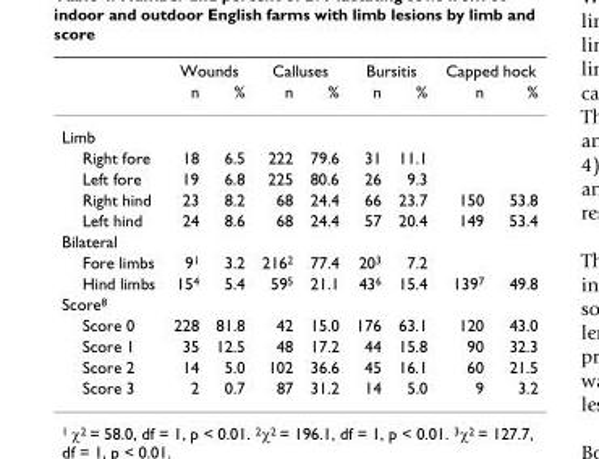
<table><thead><tr><td rowspan="2"></td><td colspan="2">Wounds</td><td colspan="2">Calluses</td><td colspan="2">Bursitis</td><td colspan="2">Capped hock</td></tr><tr><td>n</td><td>%</td><td>n</td><td>%</td><td>n</td><td>%</td><td>n</td><td>%</td></tr></thead><tbody><tr><td colspan="9">Limb</td></tr><tr><td>Right fore</td><td>18</td><td>6.5</td><td>222</td><td>79.6</td><td>31</td><td>11.1</td><td></td><td></td></tr><tr><td>Left fore</td><td>19</td><td>6.8</td><td>225</td><td>80.6</td><td>26</td><td>9.3</td><td></td><td></td></tr><tr><td>Right hind</td><td>23</td><td>8.2</td><td>68</td><td>24.4</td><td>66</td><td>23.7</td><td>150</td><td>53.8</td></tr><tr><td>Left hind</td><td>24</td><td>8.6</td><td>68</td><td>24.4</td><td>57</td><td>20.4</td><td>149</td><td>53.4</td></tr><tr><td colspan="9">Bilateral</td></tr><tr><td>Fore limbs</td><td>9<sup>1</sup></td><td>3.2</td><td>216<sup>2</sup></td><td>77.4</td><td>20<sup>3</sup></td><td>7.2</td><td></td><td></td></tr><tr><td>Hind limbs</td><td>15<sup>4</sup></td><td>5.4</td><td>59<sup>5</sup></td><td>21.1</td><td>43<sup>6</sup></td><td>15.4</td><td>139<sup>7</sup></td><td>49.8</td></tr><tr><td colspan="9">Score<sup>8</sup></td></tr><tr><td>Score 0</td><td>228</td><td>81.8</td><td>42</td><td>15.0</td><td>176</td><td>63.1</td><td>120</td><td>43.0</td></tr><tr><td>Score 1</td><td>35</td><td>12.5</td><td>48</td><td>17.2</td><td>44</td><td>15.8</td><td>90</td><td>32.3</td></tr><tr><td>Score 2</td><td>14</td><td>5.0</td><td>102</td><td>36.6</td><td>45</td><td>16.1</td><td>60</td><td>21.5</td></tr><tr><td>Score 3</td><td>2</td><td>0.7</td><td>87</td><td>31.2</td><td>14</td><td>5.0</td><td>9</td><td>3.2</td></tr></tbody></table>